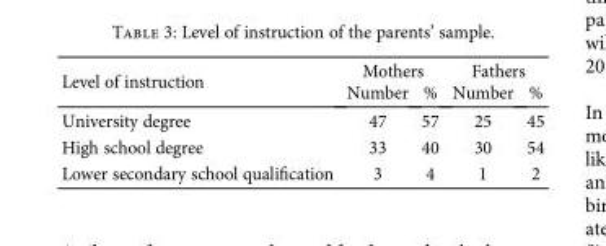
<table><thead><tr><td rowspan="2">Level of instruction</td><td colspan="2">Mothers</td><td colspan="2">Fathers</td></tr><tr><td>Number</td><td>%</td><td>Number</td><td>%</td></tr></thead><tbody><tr><td>University degree</td><td>47</td><td>57</td><td>25</td><td>45</td></tr><tr><td>High school degree</td><td>33</td><td>40</td><td>30</td><td>54</td></tr><tr><td>Lower secondary school qualification</td><td>3</td><td>4</td><td>1</td><td>2</td></tr></tbody></table>